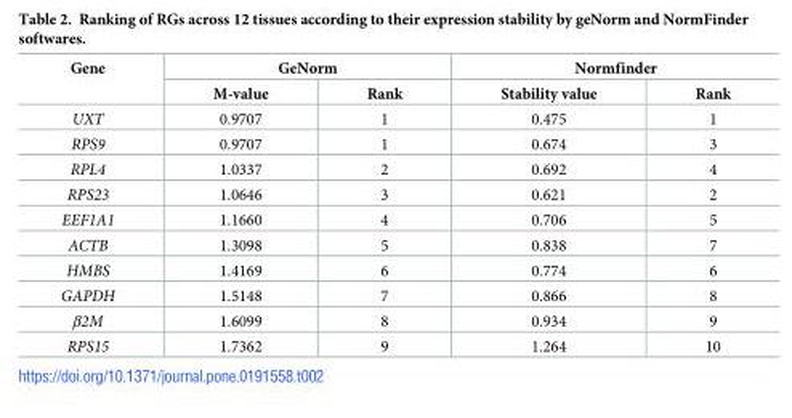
<table><thead><tr><td rowspan="2">Gene</td><td colspan="2">GeNorm</td><td colspan="2">Normfinder</td></tr><tr><td>M-value</td><td>Rank</td><td>Stability value</td><td>Rank</td></tr></thead><tbody><tr><td>UXT</td><td>0.9707</td><td>1</td><td>0.475</td><td>1</td></tr><tr><td>RPS9</td><td>0.9707</td><td>1</td><td>0.674</td><td>3</td></tr><tr><td>RPL4</td><td>1.0337</td><td>2</td><td>0.692</td><td>4</td></tr><tr><td>RPS23</td><td>1.0646</td><td>3</td><td>0.621</td><td>2</td></tr><tr><td>EEF1A1</td><td>1.1660</td><td>4</td><td>0.706</td><td>5</td></tr><tr><td>ACTB</td><td>1.3098</td><td>5</td><td>0.838</td><td>7</td></tr><tr><td>HMBS</td><td>1.4169</td><td>6</td><td>0.774</td><td>6</td></tr><tr><td>GAPDH</td><td>1.5148</td><td>7</td><td>0.866</td><td>8</td></tr><tr><td>β2M</td><td>1.6099</td><td>8</td><td>0.934</td><td>9</td></tr><tr><td>RPS15</td><td>1.7362</td><td>9</td><td>1.264</td><td>10</td></tr></tbody></table>